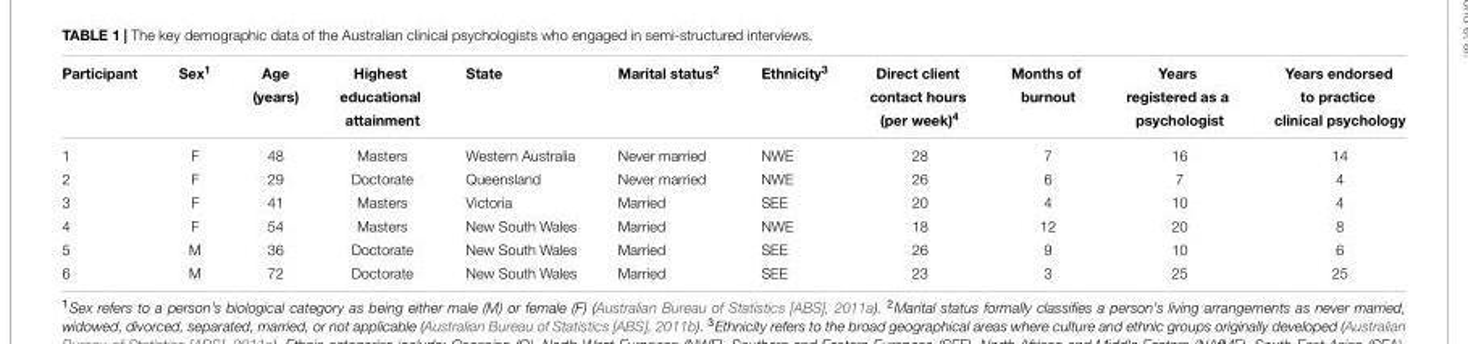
<table><thead><tr><td rowspan="3">Participant</td><td rowspan="3">Sex<sup>1</sup></td><td rowspan="3">Age (years)</td><td rowspan="3">Highest educational attainment</td><td rowspan="3">State</td><td rowspan="3">Marital status<sup>2</sup></td><td rowspan="3">Ethnicity<sup>3</sup></td><td rowspan="3">Direct client contact hours (per week)<sup>4</sup></td><td rowspan="3">Months of burnout</td><td rowspan="3">Years registered as a psychologist</td><td rowspan="3">Years endorsed to practice clinical psychology</td></tr><tr></tr><tr></tr></thead><tbody><tr><td>1</td><td>F</td><td>48</td><td>Masters</td><td>Western Australia</td><td>Never married</td><td>NWE</td><td>28</td><td>7</td><td>16</td><td>14</td></tr><tr><td>2</td><td>F</td><td>29</td><td>Doctorate</td><td>Queensland</td><td>Never married</td><td>NWE</td><td>26</td><td>6</td><td>7</td><td>4</td></tr><tr><td>3</td><td>F</td><td>41</td><td>Masters</td><td>Victoria</td><td>Married</td><td>SEE</td><td>20</td><td>4</td><td>10</td><td>4</td></tr><tr><td>4</td><td>F</td><td>54</td><td>Masters</td><td>New South Wales</td><td>Married</td><td>NWE</td><td>18</td><td>12</td><td>20</td><td>8</td></tr><tr><td>5</td><td>M</td><td>36</td><td>Doctorate</td><td>New South Wales</td><td>Married</td><td>SEE</td><td>26</td><td>9</td><td>10</td><td>6</td></tr><tr><td>6</td><td>M</td><td>72</td><td>Doctorate</td><td>New South Wales</td><td>Married</td><td>SEE</td><td>23</td><td>3</td><td>25</td><td>25</td></tr></tbody></table>